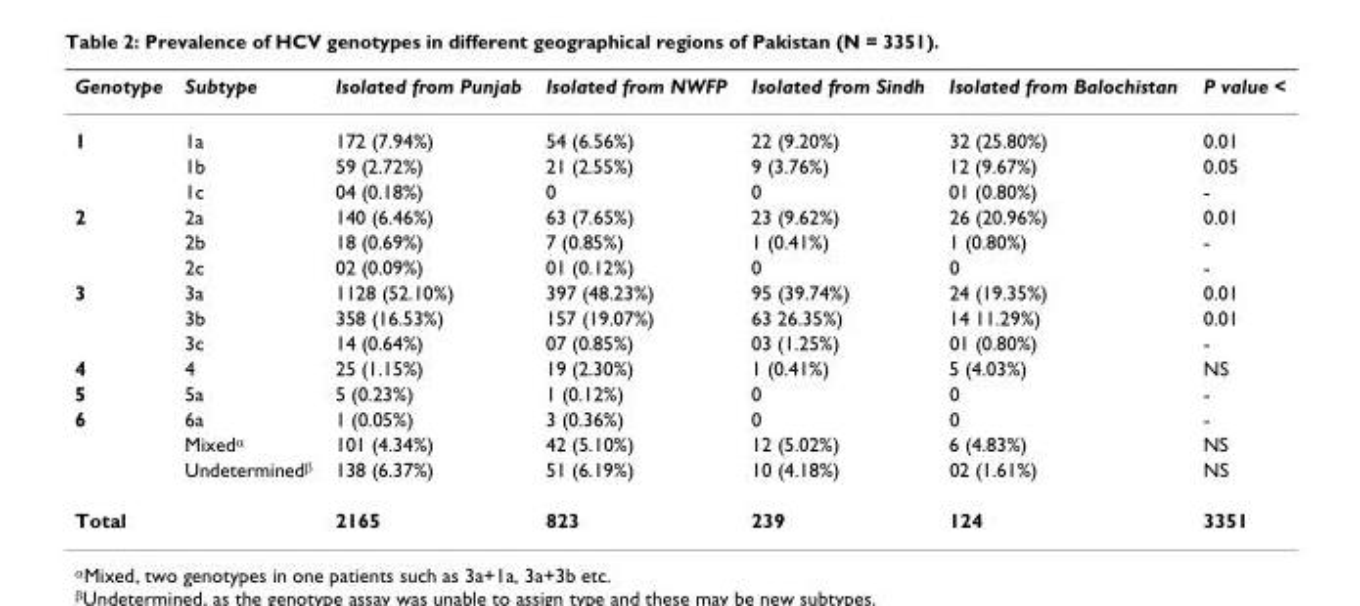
<table><thead><tr><td>Genotype</td><td>Subtype</td><td>Isolated from Punjab</td><td>Isolated from NWFP</td><td>Isolated from Sindh</td><td>Isolated from Balochistan</td><td>P value &lt;</td></tr></thead><tbody><tr><td rowspan="3">1</td><td>1a</td><td>172 (7.94%)</td><td>54 (6.56%)</td><td>22 (9.20%)</td><td>32 (25.80%)</td><td>0.01</td></tr><tr><td>1b</td><td>59 (2.72%)</td><td>21 (2.55%)</td><td>9 (3.76%)</td><td>12 (9.67%)</td><td>0.05</td></tr><tr><td>1c</td><td>04 (0.18%)</td><td>0</td><td>0</td><td>01 (0.80%)</td><td>-</td></tr><tr><td rowspan="3">2</td><td>2a</td><td>140 (6.46%)</td><td>63 (7.65%)</td><td>23 (9.62%)</td><td>26 (20.96%)</td><td>0.01</td></tr><tr><td>2b</td><td>18 (0.69%)</td><td>7 (0.85%)</td><td>1 (0.41%)</td><td>1 (0.80%)</td><td>-</td></tr><tr><td>2c</td><td>02 (0.09%)</td><td>01 (0.12%)</td><td>0</td><td>0</td><td>-</td></tr><tr><td rowspan="3">3</td><td>3a</td><td>1128 (52.10%)</td><td>397 (48.23%)</td><td>95 (39.74%)</td><td>24 (19.35%)</td><td>0.01</td></tr><tr><td>3b</td><td>358 (16.53%)</td><td>157 (19.07%)</td><td>63 26.35%)</td><td>14 11.29%)</td><td>0.01</td></tr><tr><td>3c</td><td>14 (0.64%)</td><td>07 (0.85%)</td><td>03 (1.25%)</td><td>01 (0.80%)</td><td>-</td></tr><tr><td>4</td><td>4</td><td>25 (1.15%)</td><td>19 (2.30%)</td><td>1 (0.41%)</td><td>5 (4.03%)</td><td>NS</td></tr><tr><td>5</td><td>5a</td><td>5 (0.23%)</td><td>1 (0.12%)</td><td>0</td><td>0</td><td>-</td></tr><tr><td rowspan="3">6</td><td>6a</td><td>1 (0.05%)</td><td>3 (0.36%)</td><td>0</td><td>0</td><td>-</td></tr><tr><td>Mixed<sup>α</sup></td><td>101 (4.34%)</td><td>42 (5.10%)</td><td>12 (5.02%)</td><td>6 (4.83%)</td><td>NS</td></tr><tr><td>Undetermined<sup>β</sup></td><td>138 (6.37%)</td><td>51 (6.19%)</td><td>10 (4.18%)</td><td>02 (1.61%)</td><td>NS</td></tr><tr><td>Total</td><td></td><td>2165</td><td>823</td><td>239</td><td>124</td><td>3351</td></tr></tbody></table>